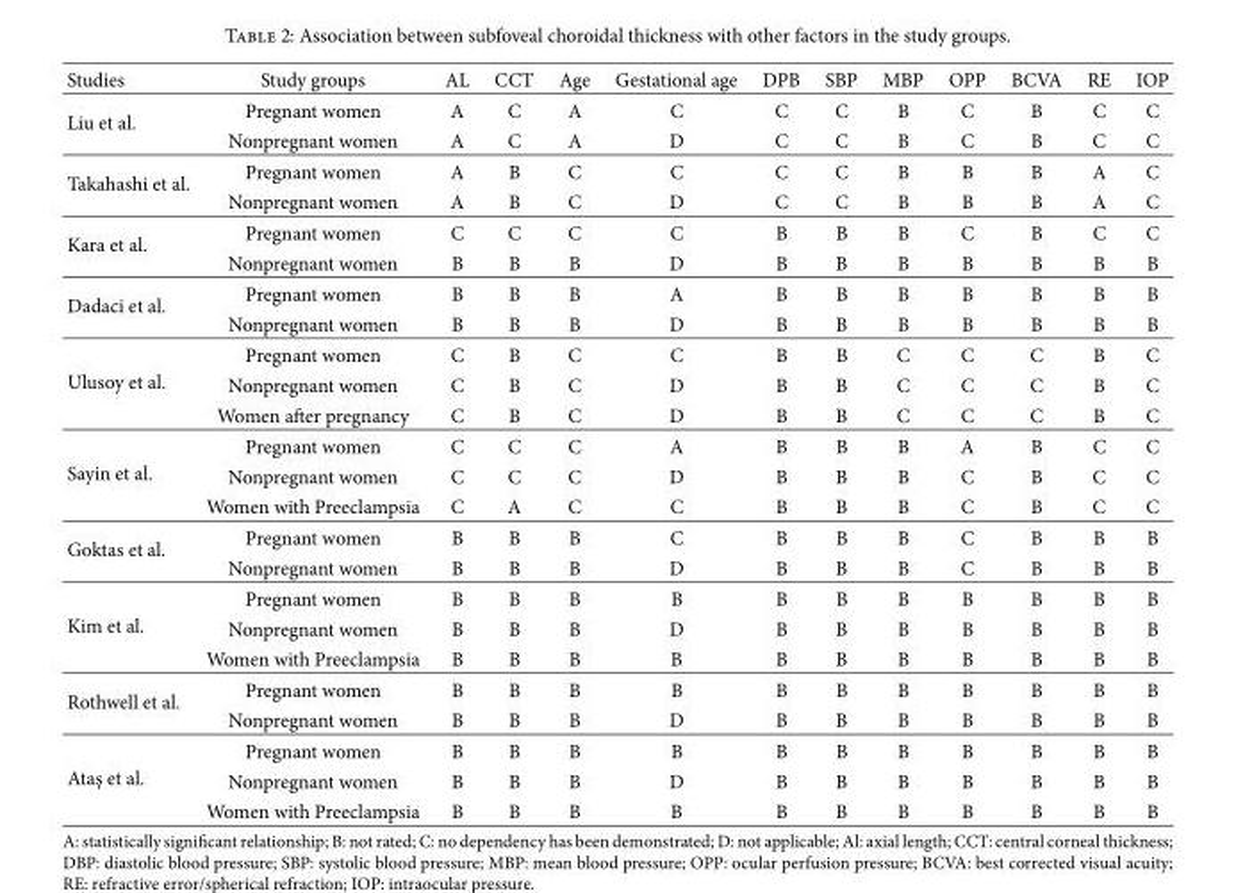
<table><thead><tr><td>Studies</td><td>Study groups</td><td>AL</td><td>CCT</td><td>Age</td><td>Gestational age</td><td>DPB</td><td>SBP</td><td>MBP</td><td>OPP</td><td>BCVA</td><td>RE</td><td>IOP</td></tr></thead><tbody><tr><td rowspan="2">Liu et al.</td><td>Pregnant women</td><td>A</td><td>C</td><td>A</td><td>C</td><td>C</td><td>C</td><td>B</td><td>C</td><td>B</td><td>C</td><td>C</td></tr><tr><td>Nonpregnant women</td><td>A</td><td>C</td><td>A</td><td>D</td><td>C</td><td>C</td><td>B</td><td>C</td><td>B</td><td>C</td><td>C</td></tr><tr><td rowspan="2">Takahashi et al.</td><td>Pregnant women</td><td>A</td><td>B</td><td>C</td><td>C</td><td>C</td><td>C</td><td>B</td><td>B</td><td>B</td><td>A</td><td>C</td></tr><tr><td>Nonpregnant women</td><td>A</td><td>B</td><td>C</td><td>D</td><td>C</td><td>C</td><td>B</td><td>B</td><td>B</td><td>A</td><td>C</td></tr><tr><td rowspan="2">Kara et al.</td><td>Pregnant women</td><td>C</td><td>C</td><td>C</td><td>C</td><td>B</td><td>B</td><td>B</td><td>C</td><td>B</td><td>C</td><td>C</td></tr><tr><td>Nonpregnant women</td><td>B</td><td>B</td><td>B</td><td>D</td><td>B</td><td>B</td><td>B</td><td>B</td><td>B</td><td>B</td><td>B</td></tr><tr><td rowspan="2">Dadaci et al.</td><td>Pregnant women</td><td>B</td><td>B</td><td>B</td><td>A</td><td>B</td><td>B</td><td>B</td><td>B</td><td>B</td><td>B</td><td>B</td></tr><tr><td>Nonpregnant women</td><td>B</td><td>B</td><td>B</td><td>D</td><td>B</td><td>B</td><td>B</td><td>B</td><td>B</td><td>B</td><td>B</td></tr><tr><td rowspan="3">Ulusoy et al.</td><td>Pregnant women</td><td>C</td><td>B</td><td>C</td><td>C</td><td>B</td><td>B</td><td>C</td><td>C</td><td>C</td><td>B</td><td>C</td></tr><tr><td>Nonpregnant women</td><td>C</td><td>B</td><td>C</td><td>D</td><td>B</td><td>B</td><td>C</td><td>C</td><td>C</td><td>B</td><td>C</td></tr><tr><td>Women after pregnancy</td><td>C</td><td>B</td><td>C</td><td>D</td><td>B</td><td>B</td><td>C</td><td>C</td><td>C</td><td>B</td><td>C</td></tr><tr><td rowspan="3">Sayin et al.</td><td>Pregnant women</td><td>C</td><td>C</td><td>C</td><td>A</td><td>B</td><td>B</td><td>B</td><td>A</td><td>B</td><td>C</td><td>C</td></tr><tr><td>Nonpregnant women</td><td>C</td><td>C</td><td>C</td><td>D</td><td>B</td><td>B</td><td>B</td><td>C</td><td>B</td><td>C</td><td>C</td></tr><tr><td>Women with Preeclampsia</td><td>C</td><td>A</td><td>C</td><td>C</td><td>B</td><td>B</td><td>B</td><td>C</td><td>B</td><td>C</td><td>C</td></tr><tr><td rowspan="2">Goktas et al.</td><td>Pregnant women</td><td>B</td><td>B</td><td>B</td><td>C</td><td>B</td><td>B</td><td>B</td><td>C</td><td>B</td><td>B</td><td>B</td></tr><tr><td>Nonpregnant women</td><td>B</td><td>B</td><td>B</td><td>D</td><td>B</td><td>B</td><td>B</td><td>C</td><td>B</td><td>B</td><td>B</td></tr><tr><td rowspan="3">Kim et al.</td><td>Pregnant women</td><td>B</td><td>B</td><td>B</td><td>B</td><td>B</td><td>B</td><td>B</td><td>B</td><td>B</td><td>B</td><td>B</td></tr><tr><td>Nonpregnant women</td><td>B</td><td>B</td><td>B</td><td>D</td><td>B</td><td>B</td><td>B</td><td>B</td><td>B</td><td>B</td><td>B</td></tr><tr><td>Women with Preeclampsia</td><td>B</td><td>B</td><td>B</td><td>B</td><td>B</td><td>B</td><td>B</td><td>B</td><td>B</td><td>B</td><td>B</td></tr><tr><td rowspan="2">Rothwell et al.</td><td>Pregnant women</td><td>B</td><td>B</td><td>B</td><td>B</td><td>B</td><td>B</td><td>B</td><td>B</td><td>B</td><td>B</td><td>B</td></tr><tr><td>Nonpregnant women</td><td>B</td><td>B</td><td>B</td><td>D</td><td>B</td><td>B</td><td>B</td><td>B</td><td>B</td><td>B</td><td>B</td></tr><tr><td rowspan="3">Atas¸ et al.</td><td>Pregnant women</td><td>B</td><td>B</td><td>B</td><td>B</td><td>B</td><td>B</td><td>B</td><td>B</td><td>B</td><td>B</td><td>B</td></tr><tr><td>Nonpregnant women</td><td>B</td><td>B</td><td>B</td><td>D</td><td>B</td><td>B</td><td>B</td><td>B</td><td>B</td><td>B</td><td>B</td></tr><tr><td>Women with Preeclampsia</td><td>B</td><td>B</td><td>B</td><td>B</td><td>B</td><td>B</td><td>B</td><td>B</td><td>B</td><td>B</td><td>B</td></tr></tbody></table>